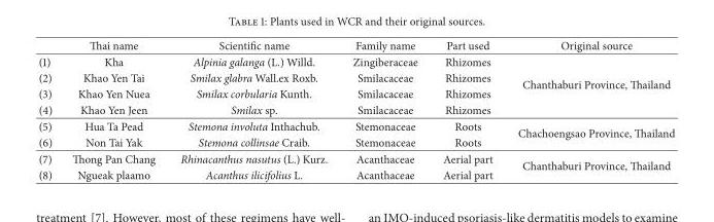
<table><thead><tr><td></td><td>Thai name</td><td>Scientific name</td><td>Family name</td><td>Part used</td><td>Original source</td></tr></thead><tbody><tr><td>(1)</td><td>Kha</td><td>Alpinia galanga (L.) Willd.</td><td>Zingiberaceae</td><td>Rhizomes</td><td rowspan="4">Chanthaburi Province, Thailand</td></tr><tr><td>(2)</td><td>Khao Yen Tai</td><td>Smilax glabra Wall.ex Roxb.</td><td>Smilacaceae</td><td>Rhizomes</td></tr><tr><td>(3)</td><td>Khao Yen Nuea</td><td>Smilax corbularia Kunth.</td><td>Smilacaceae</td><td>Rhizomes</td></tr><tr><td>(4)</td><td>Khao Yen Jeen</td><td>Smilax sp.</td><td>Smilacaceae</td><td>Rhizomes</td></tr><tr><td>(5)</td><td>Hua Ta Pead</td><td>Stemona involuta Inthachub.</td><td>Stemonaceae</td><td>Roots</td><td rowspan="2">Chachoengsao Province, Thailand</td></tr><tr><td>(6)</td><td>Non Tai Yak</td><td>Stemona collinsae Craib.</td><td>Stemonaceae</td><td>Roots</td></tr><tr><td>(7)</td><td>Thong Pan Chang</td><td>Rhinacanthus nasutus (L.) Kurz.</td><td>Acanthaceae</td><td>Aerial part</td><td rowspan="2">Chanthaburi Province, Thailand</td></tr><tr><td>(8)</td><td>Ngueak plaamo</td><td>Acanthus ilicifolius L.</td><td>Acanthaceae</td><td>Aerial part</td></tr></tbody></table>